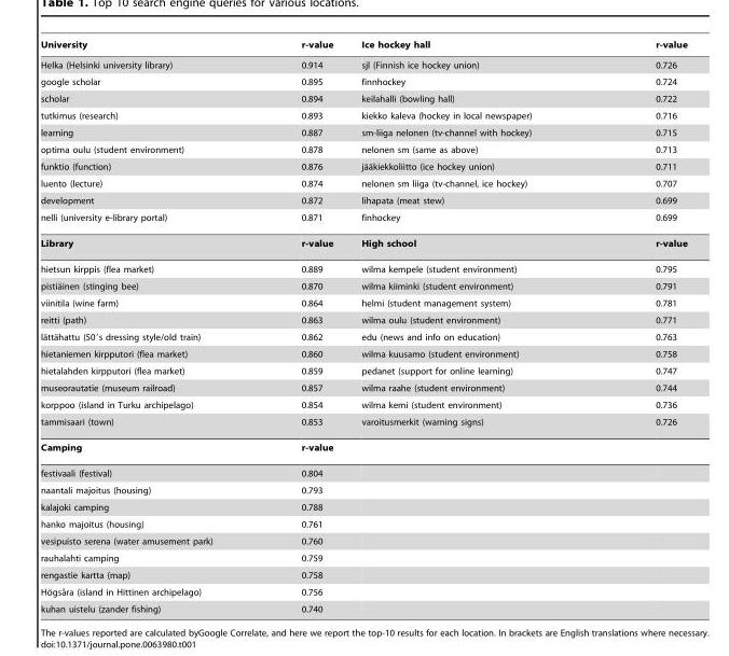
<table><thead><tr><td>University</td><td>r-value</td><td>Ice hockey hall</td><td>r-value</td></tr></thead><tbody><tr><td>Helka (Helsinki university library)</td><td>0.914</td><td>sjl (Finnish ice hockey union)</td><td>0.726</td></tr><tr><td>google scholar</td><td>0.895</td><td>finnhockey</td><td>0.724</td></tr><tr><td>scholar</td><td>0.894</td><td>keilahalli (bowling hall)</td><td>0.722</td></tr><tr><td>tutkimus (research)</td><td>0.893</td><td>kiekko kaleva (hockey in local newspaper)</td><td>0.716</td></tr><tr><td>learning</td><td>0.887</td><td>sm-liiga nelonen (tv-channel with hockey)</td><td>0.715</td></tr><tr><td>optima oulu (student environment)</td><td>0.878</td><td>nelonen sm (same as above)</td><td>0.713</td></tr><tr><td>funktio (function)</td><td>0.876</td><td>ja¨a¨kiekkoliitto (ice hockey union)</td><td>0.711</td></tr><tr><td>luento (lecture)</td><td>0.874</td><td>nelonen sm liiga (tv-channel, ice hockey)</td><td>0.707</td></tr><tr><td>development</td><td>0.872</td><td>lihapata (meat stew)</td><td>0.699</td></tr><tr><td>nelli (university e-library portal)</td><td>0.871</td><td>finhockey</td><td>0.699</td></tr><tr><td>Library</td><td>r-value</td><td>High school</td><td>r-value</td></tr><tr><td>hietsun kirppis (flea market)</td><td>0.889</td><td>wilma kempele (student environment)</td><td>0.795</td></tr><tr><td>pistia¨inen (stinging bee)</td><td>0.870</td><td>wilma kiiminki (student environment)</td><td>0.791</td></tr><tr><td>viinitila (wine farm)</td><td>0.864</td><td>helmi (student management system)</td><td>0.781</td></tr><tr><td>reitti (path)</td><td>0.863</td><td>wilma oulu (student environment)</td><td>0.771</td></tr><tr><td>la¨tta¨hattu (509s dressing style/old train)</td><td>0.862</td><td>edu (news and info on education)</td><td>0.763</td></tr><tr><td>hietaniemen kirpputori (flea market)</td><td>0.860</td><td>wilma kuusamo (student environment)</td><td>0.758</td></tr><tr><td>hietalahden kirpputori (flea market)</td><td>0.859</td><td>pedanet (support for online learning)</td><td>0.747</td></tr><tr><td>museorautatie (museum railroad)</td><td>0.857</td><td>wilma raahe (student environment)</td><td>0.744</td></tr><tr><td>korppoo (island in Turku archipelago)</td><td>0.854</td><td>wilma kemi (student environment)</td><td>0.736</td></tr><tr><td>tammisaari (town)</td><td>0.853</td><td>varoitusmerkit (warning signs)</td><td>0.726</td></tr><tr><td>Camping</td><td>r-value</td><td></td><td></td></tr><tr><td>festivaali (festival)</td><td>0.804</td><td></td><td></td></tr><tr><td>naantali majoitus (housing)</td><td>0.793</td><td></td><td></td></tr><tr><td>kalajoki camping</td><td>0.788</td><td></td><td></td></tr><tr><td>hanko majoitus (housing)</td><td>0.761</td><td></td><td></td></tr><tr><td>vesipuisto serena (water amusement park)</td><td>0.760</td><td></td><td></td></tr><tr><td>rauhalahti camping</td><td>0.759</td><td></td><td></td></tr><tr><td>rengastie kartta (map)</td><td>0.758</td><td></td><td></td></tr><tr><td>Ho¨gsa˚ra (island in Hittinen archipelago)</td><td>0.756</td><td></td><td></td></tr><tr><td>kuhan uistelu (zander fishing)</td><td>0.740</td><td></td><td></td></tr></tbody></table>